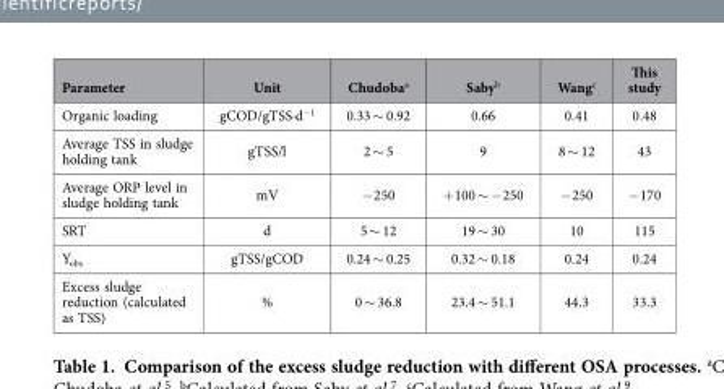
<table><thead><tr><td>Parameter</td><td>Unit</td><td>Chudoba<sup>a</sup></td><td>Saby<sup>b</sup></td><td>Wang<sup>c</sup></td><td>This study</td></tr></thead><tbody><tr><td>Organic loading</td><td>gCOD/gTSS·d<sup>−1</sup></td><td>0.33 ∼ 0.92</td><td>0.66</td><td>0.41</td><td>0.48</td></tr><tr><td>Average TSS in sludge holding tank</td><td>gTSS/l</td><td>2 ∼ 5</td><td>9</td><td>8 ∼ 12</td><td>43</td></tr><tr><td>Average ORP level in sludge holding tank</td><td>mV</td><td>− 250</td><td>+ 100 ∼ − 250</td><td>− 250</td><td>− 170</td></tr><tr><td>SRT</td><td>d</td><td>5 ∼ 12</td><td>19 ∼ 30</td><td>10</td><td>115</td></tr><tr><td>Y<sub>obs</sub></td><td>gTSS/gCOD</td><td>0.24 ∼ 0.25</td><td>0.32 ∼ 0.18</td><td>0.24</td><td>0.24</td></tr><tr><td>Excess sludge reduction (calculated as TSS)</td><td>%</td><td>0 ∼ 36.8</td><td>23.4 ∼ 51.1</td><td>44.3</td><td>33.3</td></tr></tbody></table>